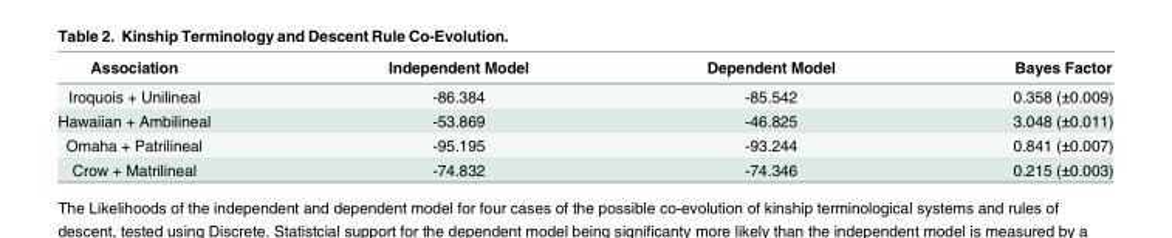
<table><thead><tr><td>Association</td><td>Independent Model</td><td>Dependent Model</td><td>Bayes Factor</td></tr></thead><tbody><tr><td>Iroquois + Unilineal</td><td>-86.384</td><td>-85.542</td><td>0.358 (±0.009)</td></tr><tr><td>Hawaiian + Ambilineal</td><td>-53.869</td><td>-46.825</td><td>3.048 (±0.011)</td></tr><tr><td>Omaha + Patrilineal</td><td>-95.195</td><td>-93.244</td><td>0.841 (±0.007)</td></tr><tr><td>Crow + Matrilineal</td><td>-74.832</td><td>-74.346</td><td>0.215 (±0.003)</td></tr></tbody></table>